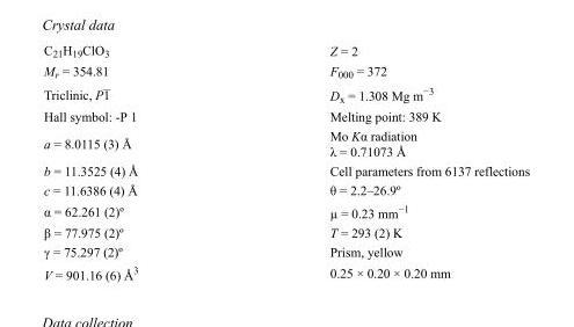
<table><tbody><tr><td>C<sub>21</sub>H<sub>19</sub>ClO<sub>3</sub></td><td>Z = 2</td></tr><tr><td>M<sub>r</sub> = 354.81</td><td>F000 = 372</td></tr><tr><td>Triclinic, P1</td><td>D<sub>x</sub> = 1.308 Mg m<sup>−3</sup></td></tr><tr><td>Hall symbol: -P 1</td><td>Melting point: 389 K</td></tr><tr><td>a = 8.0115 (3) Å</td><td>Mo Kα radiation λ = 0.71073 Å</td></tr><tr><td>b = 11.3525 (4) Å</td><td>Cell parameters from 6137 reflections</td></tr><tr><td>c = 11.6386 (4) Å</td><td>θ = 2.2–26.9º</td></tr><tr><td>α = 62.261 (2)º</td><td>µ = 0.23 mm<sup>−1</sup></td></tr><tr><td>β = 77.975 (2)º</td><td>T = 293 (2) K</td></tr><tr><td>γ = 75.297 (2)º</td><td>Prism, yellow</td></tr><tr><td>V = 901.16 (6) Å<sup>3</sup></td><td>0.25 × 0.20 × 0.20 mm</td></tr></tbody></table>